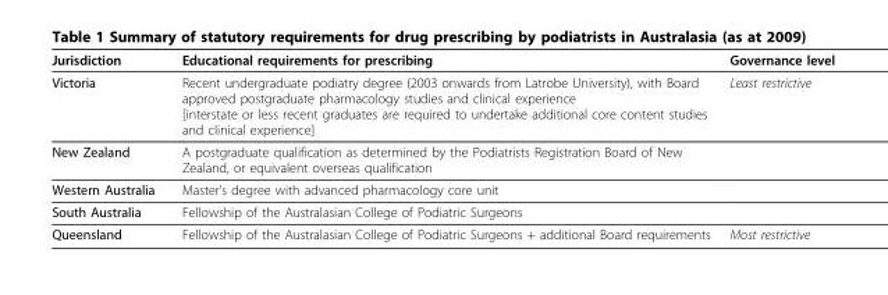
<table><thead><tr><td>Jurisdiction</td><td>Educational requirements for prescribing</td><td>Governance level</td></tr></thead><tbody><tr><td>Victoria</td><td>Recent undergraduate podiatry degree (2003 onwards from Latrobe University), with Board approved postgraduate pharmacology studies and clinical experience [interstate or less recent graduates are required to undertake additional core content studies and clinical experience]</td><td>Least restrictive</td></tr><tr><td>New Zealand</td><td>A postgraduate qualification as determined by the Podiatrists Registration Board of New Zealand, or equivalent overseas qualification</td><td></td></tr><tr><td>Western Australia</td><td>Master’s degree with advanced pharmacology core unit</td><td></td></tr><tr><td>South Australia</td><td>Fellowship of the Australasian College of Podiatric Surgeons</td><td></td></tr><tr><td>Queensland</td><td>Fellowship of the Australasian College of Podiatric Surgeons + additional Board requirements</td><td>Most restrictive</td></tr></tbody></table>